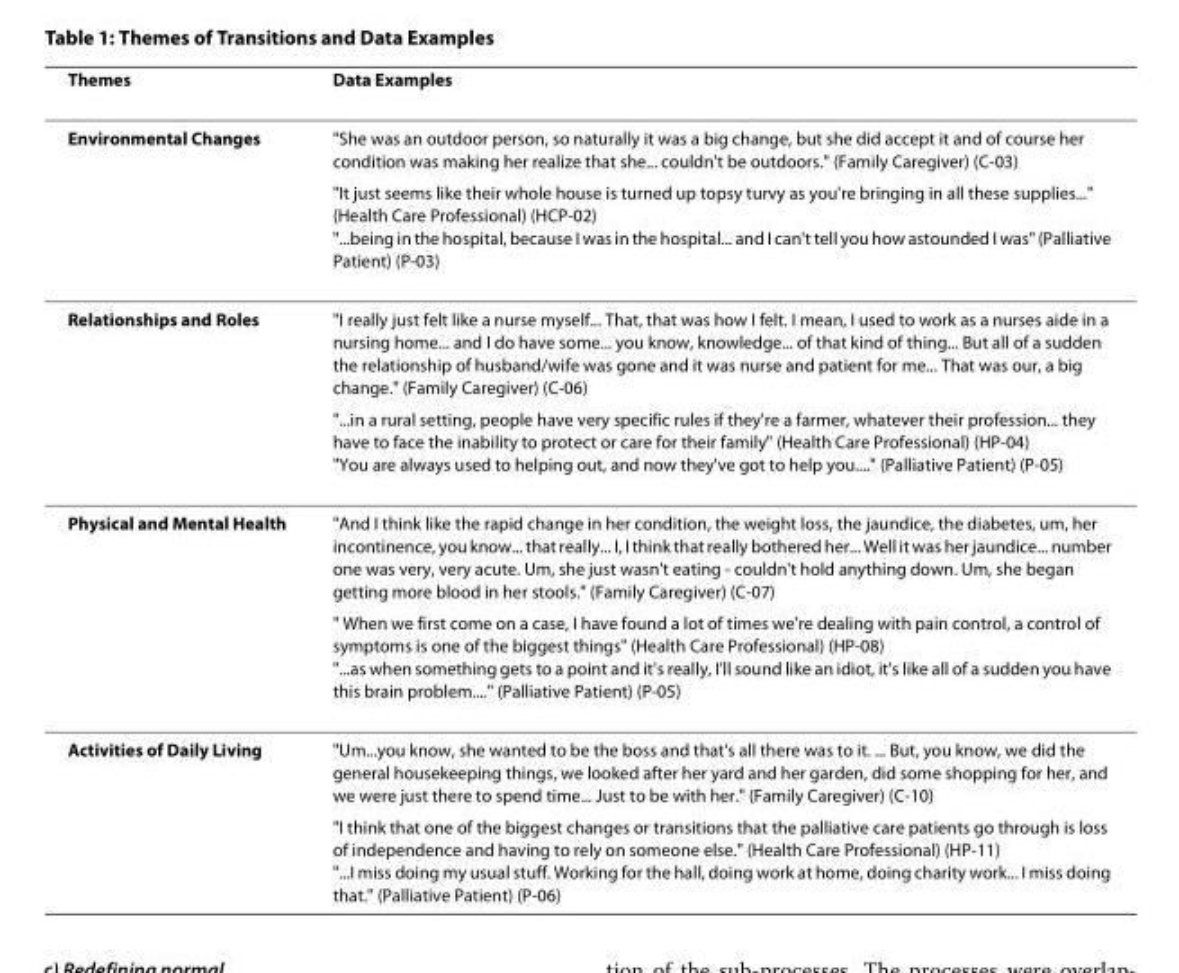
<table><thead><tr><td>Themes</td><td>Data Examples</td></tr></thead><tbody><tr><td rowspan="2">Environmental Changes</td><td>&quot;She was an outdoor person, so naturally it was a big change, but she did accept it and of course her condition was making her realize that she... couldn&#x27;t be outdoors.&quot; (Family Caregiver) (C-03)</td></tr><tr><td>&quot;It just seems like their whole house is turned up topsy turvy as you&#x27;re bringing in all these supplies...&quot; (Health Care Professional) (HCP-02) &quot;...being in the hospital, because I was in the hospital... and I can&#x27;t tell you how astounded I was&quot; (Palliative Patient) (P-03)</td></tr><tr><td rowspan="2">Relationships and Roles</td><td>&quot;I really just felt like a nurse myself... That, that was how I felt. I mean, I used to work as a nurses aide in a nursing home... and I do have some... you know, knowledge... of that kind of thing... But all of a sudden the relationship of husband/wife was gone and it was nurse and patient for me... That was our, a big change.&quot; (Family Caregiver) (C-06)</td></tr><tr><td>&quot;...in a rural setting, people have very specific rules if they&#x27;re a farmer, whatever their profession... they have to face the inability to protect or care for their family&quot; (Health Care Professional) (HP-04) &quot;You are always used to helping out, and now they&#x27;ve got to help you....&quot; (Palliative Patient) (P-05)</td></tr><tr><td rowspan="2">Physical and Mental Health</td><td>&quot;And I think like the rapid change in her condition, the weight loss, the jaundice, the diabetes, um, her incontinence, you know... that really... I, I think that really bothered her... Well it was her jaundice... number one was very, very acute. Um, she just wasn&#x27;t eating - couldn&#x27;t hold anything down. Um, she began getting more blood in her stools.&quot; (Family Caregiver) (C-07)</td></tr><tr><td>&quot; When we first come on a case, I have found a lot of times we&#x27;re dealing with pain control, a control of symptoms is one of the biggest things&quot; (Health Care Professional) (HP-08) &quot;...as when something gets to a point and it&#x27;s really, I&#x27;ll sound like an idiot, it&#x27;s like all of a sudden you have this brain problem....&quot; (Palliative Patient) (P-05)</td></tr><tr><td rowspan="2">Activities of Daily Living</td><td>&quot;Um...you know, she wanted to be the boss and that&#x27;s all there was to it. ... But, you know, we did the general housekeeping things, we looked after her yard and her garden, did some shopping for her, and we were just there to spend time... Just to be with her.&quot; (Family Caregiver) (C-10)</td></tr><tr><td>&quot;I think that one of the biggest changes or transitions that the palliative care patients go through is loss of independence and having to rely on someone else.&quot; (Health Care Professional) (HP-11) &quot;...I miss doing my usual stuff. Working for the hall, doing work at home, doing charity work... I miss doing that.&quot; (Palliative Patient) (P-06)</td></tr></tbody></table>